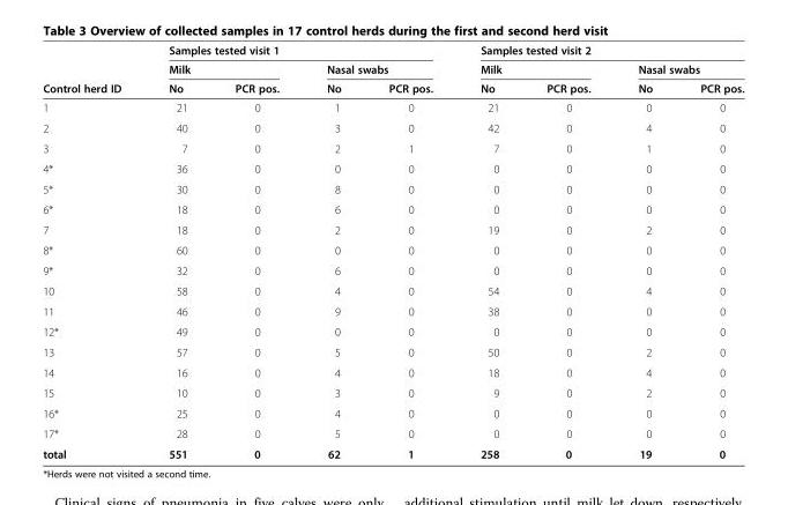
<table><thead><tr><td rowspan="3">Control herd ID</td><td colspan="4">Samples tested visit 1</td><td colspan="4">Samples tested visit 2</td></tr><tr><td colspan="2">Milk</td><td colspan="2">Nasal swabs</td><td colspan="2">Milk</td><td colspan="2">Nasal swabs</td></tr><tr><td>No</td><td>PCR pos.</td><td>No</td><td>PCR pos.</td><td>No</td><td>PCR pos.</td><td>No</td><td>PCR pos.</td></tr></thead><tbody><tr><td>1</td><td>21</td><td>0</td><td>1</td><td>0</td><td>21</td><td>0</td><td>0</td><td>0</td></tr><tr><td>2</td><td>40</td><td>0</td><td>3</td><td>0</td><td>42</td><td>0</td><td>4</td><td>0</td></tr><tr><td>3</td><td>7</td><td>0</td><td>2</td><td>1</td><td>7</td><td>0</td><td>1</td><td>0</td></tr><tr><td>4*</td><td>36</td><td>0</td><td>0</td><td>0</td><td>0</td><td>0</td><td>0</td><td>0</td></tr><tr><td>5*</td><td>30</td><td>0</td><td>8</td><td>0</td><td>0</td><td>0</td><td>0</td><td>0</td></tr><tr><td>6*</td><td>18</td><td>0</td><td>6</td><td>0</td><td>0</td><td>0</td><td>0</td><td>0</td></tr><tr><td>7</td><td>18</td><td>0</td><td>2</td><td>0</td><td>19</td><td>0</td><td>2</td><td>0</td></tr><tr><td>8*</td><td>60</td><td>0</td><td>0</td><td>0</td><td>0</td><td>0</td><td>0</td><td>0</td></tr><tr><td>9*</td><td>32</td><td>0</td><td>6</td><td>0</td><td>0</td><td>0</td><td>0</td><td>0</td></tr><tr><td>10</td><td>58</td><td>0</td><td>4</td><td>0</td><td>54</td><td>0</td><td>4</td><td>0</td></tr><tr><td>11</td><td>46</td><td>0</td><td>9</td><td>0</td><td>38</td><td>0</td><td>0</td><td>0</td></tr><tr><td>12*</td><td>49</td><td>0</td><td>0</td><td>0</td><td>0</td><td>0</td><td>0</td><td>0</td></tr><tr><td>13</td><td>57</td><td>0</td><td>5</td><td>0</td><td>50</td><td>0</td><td>2</td><td>0</td></tr><tr><td>14</td><td>16</td><td>0</td><td>4</td><td>0</td><td>18</td><td>0</td><td>4</td><td>0</td></tr><tr><td>15</td><td>10</td><td>0</td><td>3</td><td>0</td><td>9</td><td>0</td><td>2</td><td>0</td></tr><tr><td>16*</td><td>25</td><td>0</td><td>4</td><td>0</td><td>0</td><td>0</td><td>0</td><td>0</td></tr><tr><td>17*</td><td>28</td><td>0</td><td>5</td><td>0</td><td>0</td><td>0</td><td>0</td><td>0</td></tr><tr><td>total</td><td>551</td><td>0</td><td>62</td><td>1</td><td>258</td><td>0</td><td>19</td><td>0</td></tr></tbody></table>